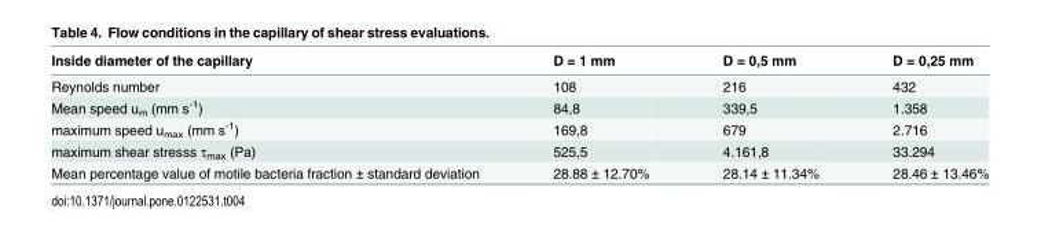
<table><thead><tr><td>Inside diameter of the capillary</td><td>D = 1 mm</td><td>D = 0,5 mm</td><td>D = 0,25 mm</td></tr></thead><tbody><tr><td>Reynolds number</td><td>108</td><td>216</td><td>432</td></tr><tr><td>Mean speed u<sub>m</sub> (mm s<sup>-1</sup>)</td><td>84,8</td><td>339,5</td><td>1.358</td></tr><tr><td>maximum speed u<sub>max</sub> (mm s<sup>-1</sup>)</td><td>169,8</td><td>679</td><td>2.716</td></tr><tr><td>maximum shear stresss τ<sub>max</sub> (Pa)</td><td>525,5</td><td>4.161,8</td><td>33.294</td></tr><tr><td>Mean percentage value of motile bacteria fraction ± standard deviation</td><td>28.88 ± 12.70%</td><td>28.14 ± 11.34%</td><td>28.46 ± 13.46%</td></tr></tbody></table>